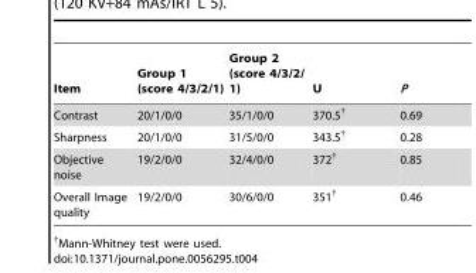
<table><thead><tr><td>Item</td><td>Group 1 (score 4/3/2/1)</td><td>Group 2 (score 4/3/2/ 1)</td><td>U</td><td>P</td></tr></thead><tbody><tr><td>Contrast</td><td>20/1/0/0</td><td>35/1/0/0</td><td>370.5†</td><td>0.69</td></tr><tr><td>Sharpness</td><td>20/1/0/0</td><td>31/5/0/0</td><td>343.5†</td><td>0.28</td></tr><tr><td>Objective noise</td><td>19/2/0/0</td><td>32/4/0/0</td><td>372†</td><td>0.85</td></tr><tr><td>Overall Image quality</td><td>19/2/0/0</td><td>30/6/0/0</td><td>351†</td><td>0.46</td></tr></tbody></table>